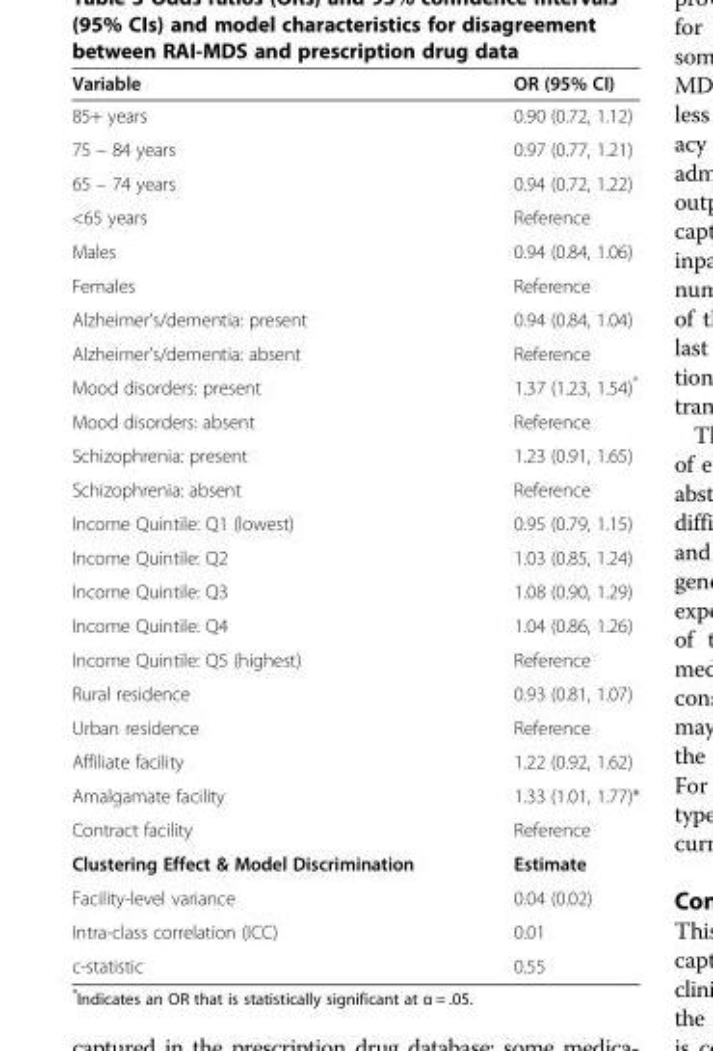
<table><thead><tr><td>Variable</td><td>OR (95% CI)</td></tr></thead><tbody><tr><td>85+ years</td><td>0.90 (0.72, 1.12)</td></tr><tr><td>75 – 84 years</td><td>0.97 (0.77, 1.21)</td></tr><tr><td>65 – 74 years</td><td>0.94 (0.72, 1.22)</td></tr><tr><td>&lt;65 years</td><td>Reference</td></tr><tr><td>Males</td><td>0.94 (0.84, 1.06)</td></tr><tr><td>Females</td><td>Reference</td></tr><tr><td>Alzheimer’s/dementia: present</td><td>0.94 (0.84, 1.04)</td></tr><tr><td>Alzheimer’s/dementia: absent</td><td>Reference</td></tr><tr><td>Mood disorders: present</td><td>1.37 (1.23, 1.54)*</td></tr><tr><td>Mood disorders: absent</td><td>Reference</td></tr><tr><td>Schizophrenia: present</td><td>1.23 (0.91, 1.65)</td></tr><tr><td>Schizophrenia: absent</td><td>Reference</td></tr><tr><td>Income Quintile: Q1 (lowest)</td><td>0.95 (0.79, 1.15)</td></tr><tr><td>Income Quintile: Q2</td><td>1.03 (0.85, 1.24)</td></tr><tr><td>Income Quintile: Q3</td><td>1.08 (0.90, 1.29)</td></tr><tr><td>Income Quintile: Q4</td><td>1.04 (0.86, 1.26)</td></tr><tr><td>Income Quintile: Q5 (highest)</td><td>Reference</td></tr><tr><td>Rural residence</td><td>0.93 (0.81, 1.07)</td></tr><tr><td>Urban residence</td><td>Reference</td></tr><tr><td>Affiliate facility</td><td>1.22 (0.92, 1.62)</td></tr><tr><td>Amalgamate facility</td><td>1.33 (1.01, 1.77)*</td></tr><tr><td>Contract facility</td><td>Reference</td></tr><tr><td>Clustering Effect &amp; Model Discrimination</td><td>Estimate</td></tr><tr><td>Facility-level variance</td><td>0.04 (0.02)</td></tr><tr><td>Intra-class correlation (ICC)</td><td>0.01</td></tr><tr><td>c-statistic</td><td>0.55</td></tr></tbody></table>